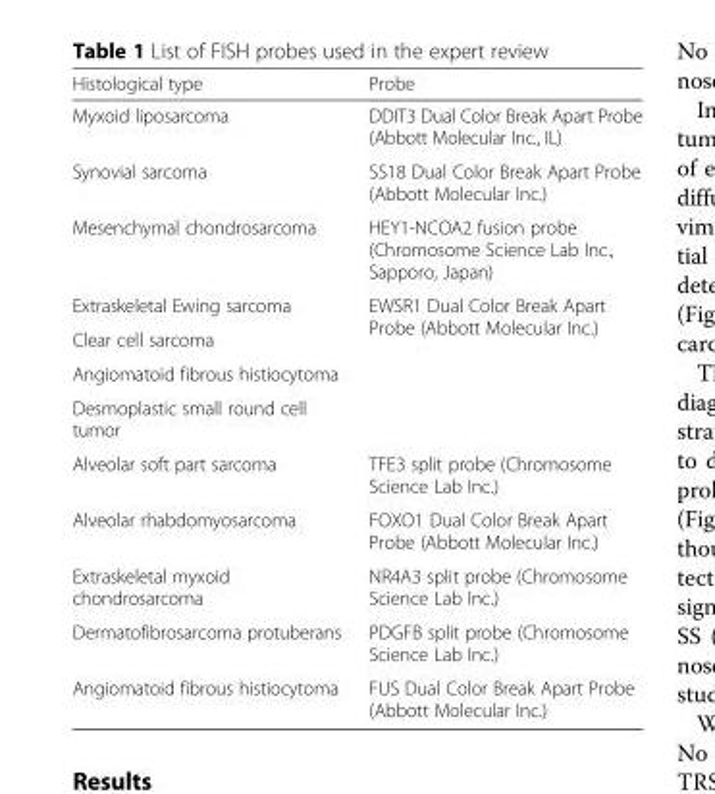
<table><thead><tr><td>Histological type</td><td>Probe</td></tr></thead><tbody><tr><td>Myxoid liposarcoma</td><td>DDIT3 Dual Color Break Apart Probe (Abbott Molecular Inc., IL)</td></tr><tr><td>Synovial sarcoma</td><td>SS18 Dual Color Break Apart Probe (Abbott Molecular Inc.)</td></tr><tr><td>Mesenchymal chondrosarcoma</td><td>HEY1-NCOA2 fusion probe (Chromosome Science Lab Inc., Sapporo, Japan)</td></tr><tr><td>Extraskeletal Ewing sarcoma</td><td rowspan="4">EWSR1 Dual Color Break Apart Probe (Abbott Molecular Inc.)</td></tr><tr><td>Clear cell sarcoma</td></tr><tr><td>Angiomatoid fibrous histiocytoma</td></tr><tr><td>Desmoplastic small round cell tumor</td></tr><tr><td>Alveolar soft part sarcoma</td><td>TFE3 split probe (Chromosome Science Lab Inc.)</td></tr><tr><td>Alveolar rhabdomyosarcoma</td><td>FOXO1 Dual Color Break Apart Probe (Abbott Molecular Inc.)</td></tr><tr><td>Extraskeletal myxoid chondrosarcoma</td><td>NR4A3 split probe (Chromosome Science Lab Inc.)</td></tr><tr><td>Dermatofibrosarcoma protuberans</td><td>PDGFB split probe (Chromosome Science Lab Inc.)</td></tr><tr><td>Angiomatoid fibrous histiocytoma</td><td>FUS Dual Color Break Apart Probe (Abbott Molecular Inc.)</td></tr></tbody></table>